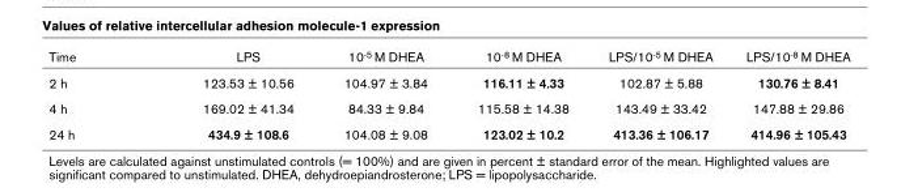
<table><thead><tr><td>Time</td><td>LPS</td><td>10-5 M DHEA</td><td>10-8 M DHEA</td><td>LPS/10-5 M DHEA</td><td>LPS/10-8 M DHEA</td></tr></thead><tbody><tr><td>2 h</td><td>123.53 ± 10.56</td><td>104.97 ± 3.84</td><td>116.11 ± 4.33</td><td>102.87 ± 5.88</td><td>130.76 ± 8.41</td></tr><tr><td>4 h</td><td>169.02 ± 41.34</td><td>84.33 ± 9.84</td><td>115.58 ± 14.38</td><td>143.49 ± 33.42</td><td>147.88 ± 29.86</td></tr><tr><td>24 h</td><td>434.9 ± 108.6</td><td>104.08 ± 9.08</td><td>123.02 ± 10.2</td><td>413.36 ± 106.17</td><td>414.96 ± 105.43</td></tr></tbody></table>